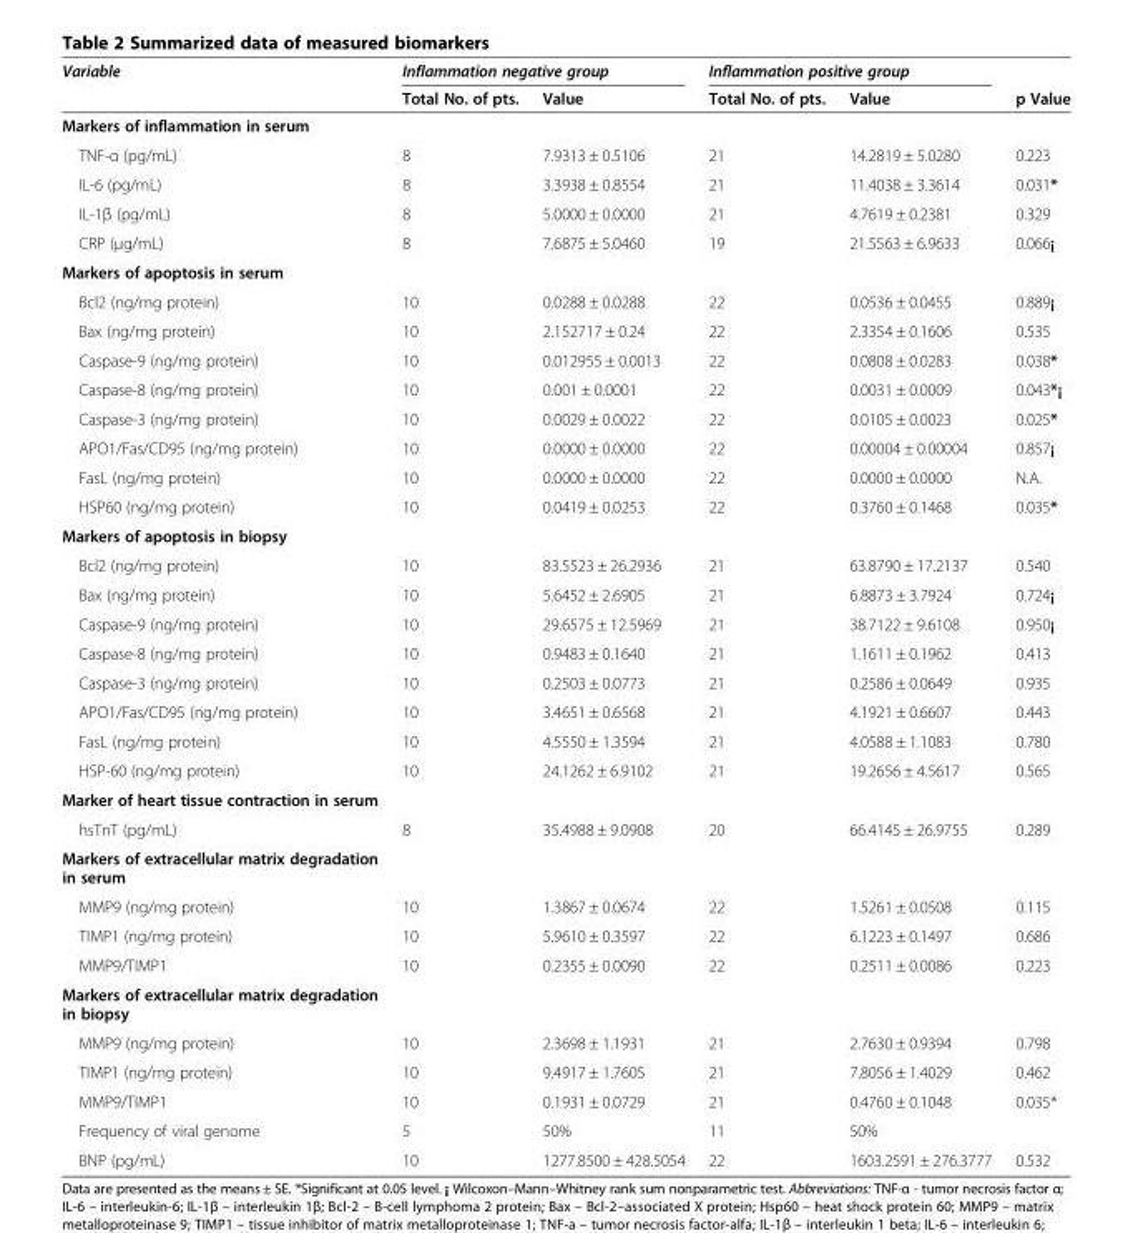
<table><thead><tr><td rowspan="2">Variable</td><td colspan="2">Inflammation negative group</td><td colspan="2">Inflammation positive group</td><td rowspan="2">p Value</td></tr><tr><td>Total No. of pts.</td><td>Value</td><td>Total No. of pts.</td><td>Value</td></tr></thead><tbody><tr><td colspan="6">Markers of inflammation in serum</td></tr><tr><td>TNF-α (pg/mL)</td><td>8</td><td>7.9313 ± 0.5106</td><td>21</td><td>14.2819 ± 5.0280</td><td>0.223</td></tr><tr><td>IL-6 (pg/mL)</td><td>8</td><td>3.3938 ± 0.8554</td><td>21</td><td>11.4038 ± 3.3614</td><td>0.031*</td></tr><tr><td>IL-1β (pg/mL)</td><td>8</td><td>5.0000 ± 0.0000</td><td>21</td><td>4.7619 ± 0.2381</td><td>0.329</td></tr><tr><td>CRP (μg/mL)</td><td>8</td><td>7.6875 ± 5.0460</td><td>19</td><td>21.5563 ± 6.9633</td><td>0.066¡</td></tr><tr><td colspan="6">Markers of apoptosis in serum</td></tr><tr><td>Bcl2 (ng/mg protein)</td><td>10</td><td>0.0288 ± 0.0288</td><td>22</td><td>0.0536 ± 0.0455</td><td>0.889¡</td></tr><tr><td>Bax (ng/mg protein)</td><td>10</td><td>2.152717 ± 0.24</td><td>22</td><td>2.3354 ± 0.1606</td><td>0.535</td></tr><tr><td>Caspase-9 (ng/mg protein)</td><td>10</td><td>0.012955 ± 0.0013</td><td>22</td><td>0.0808 ± 0.0283</td><td>0.038*</td></tr><tr><td>Caspase-8 (ng/mg protein)</td><td>10</td><td>0.001 ± 0.0001</td><td>22</td><td>0.0031 ± 0.0009</td><td>0.043*¡</td></tr><tr><td>Caspase-3 (ng/mg protein)</td><td>10</td><td>0.0029 ± 0.0022</td><td>22</td><td>0.0105 ± 0.0023</td><td>0.025*</td></tr><tr><td>APO1/Fas/CD95 (ng/mg protein)</td><td>10</td><td>0.0000 ± 0.0000</td><td>22</td><td>0.00004 ± 0.00004</td><td>0.857¡</td></tr><tr><td>FasL (ng/mg protein)</td><td>10</td><td>0.0000 ± 0.0000</td><td>22</td><td>0.0000 ± 0.0000</td><td>N.A.</td></tr><tr><td>HSP60 (ng/mg protein)</td><td>10</td><td>0.0419 ± 0.0253</td><td>22</td><td>0.3760 ± 0.1468</td><td>0.035*</td></tr><tr><td colspan="6">Markers of apoptosis in biopsy</td></tr><tr><td>Bcl2 (ng/mg protein)</td><td>10</td><td>83.5523 ± 26.2936</td><td>21</td><td>63.8790 ± 17.2137</td><td>0.540</td></tr><tr><td>Bax (ng/mg protein)</td><td>10</td><td>5.6452 ± 2.6905</td><td>21</td><td>6.8873 ± 3.7924</td><td>0.724¡</td></tr><tr><td>Caspase-9 (ng/mg protein)</td><td>10</td><td>29.6575 ± 12.5969</td><td>21</td><td>38.7122 ± 9.6108</td><td>0.950¡</td></tr><tr><td>Caspase-8 (ng/mg protein)</td><td>10</td><td>0.9483 ± 0.1640</td><td>21</td><td>1.1611 ± 0.1962</td><td>0.413</td></tr><tr><td>Caspase-3 (ng/mg protein)</td><td>10</td><td>0.2503 ± 0.0773</td><td>21</td><td>0.2586 ± 0.0649</td><td>0.935</td></tr><tr><td>APO1/Fas/CD95 (ng/mg protein)</td><td>10</td><td>3.4651 ± 0.6568</td><td>21</td><td>4.1921 ± 0.6607</td><td>0.443</td></tr><tr><td>FasL (ng/mg protein)</td><td>10</td><td>4.5550 ± 1.3594</td><td>21</td><td>4.0588 ± 1.1083</td><td>0.780</td></tr><tr><td>HSP-60 (ng/mg protein)</td><td>10</td><td>24.1262 ± 6.9102</td><td>21</td><td>19.2656 ± 4.5617</td><td>0.565</td></tr><tr><td colspan="6">Marker of heart tissue contraction in serum</td></tr><tr><td>hsTnT (pg/mL)</td><td>8</td><td>35.4988 ± 9.0908</td><td>20</td><td>66.4145 ± 26.9755</td><td>0.289</td></tr><tr><td colspan="6">Markers of extracellular matrix degradation in serum</td></tr><tr><td>MMP9 (ng/mg protein)</td><td>10</td><td>1.3867 ± 0.0674</td><td>22</td><td>1.5261 ± 0.0508</td><td>0.115</td></tr><tr><td>TIMP1 (ng/mg protein)</td><td>10</td><td>5.9610 ± 0.3597</td><td>22</td><td>6.1223 ± 0.1497</td><td>0.686</td></tr><tr><td>MMP9/TIMP1</td><td>10</td><td>0.2355 ± 0.0090</td><td>22</td><td>0.2511 ± 0.0086</td><td>0.223</td></tr><tr><td colspan="6">Markers of extracellular matrix degradation in biopsy</td></tr><tr><td>MMP9 (ng/mg protein)</td><td>10</td><td>2.3698 ± 1.1931</td><td>21</td><td>2.7630 ± 0.9394</td><td>0.798</td></tr><tr><td>TIMP1 (ng/mg protein)</td><td>10</td><td>9.4917 ± 1.7605</td><td>21</td><td>7.8056 ± 1.4029</td><td>0.462</td></tr><tr><td>MMP9/TIMP1</td><td>10</td><td>0.1931 ± 0.0729</td><td>21</td><td>0.4760 ± 0.1048</td><td>0.035*</td></tr><tr><td>Frequency of viral genome</td><td>5</td><td>50%</td><td>11</td><td>50%</td><td></td></tr><tr><td>BNP (pg/mL)</td><td>10</td><td>1277.8500 ± 428.5054</td><td>22</td><td>1603.2591 ± 276.3777</td><td>0.532</td></tr></tbody></table>